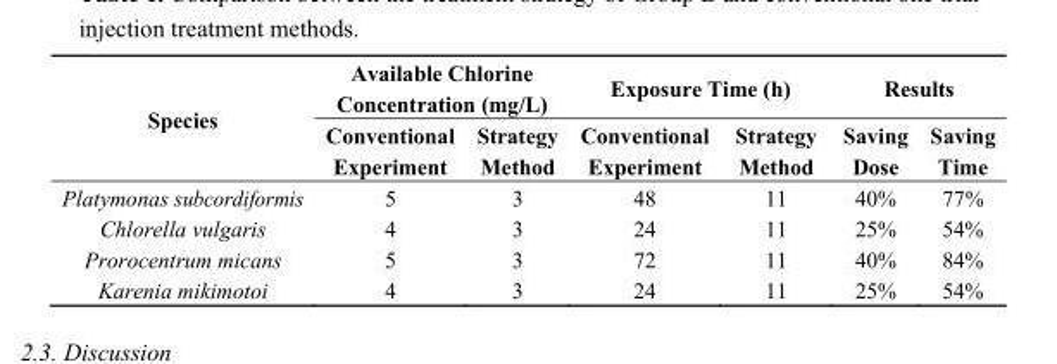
<table><thead><tr><td rowspan="2">Species</td><td colspan="2">Available Chlorine Concentration (mg/L)</td><td colspan="2">Exposure Time (h)</td><td colspan="2">Results</td></tr><tr><td>Conventional Experiment</td><td>Strategy Method</td><td>Conventional Experiment</td><td>Strategy Method</td><td>Saving Dose</td><td>Saving Time</td></tr></thead><tbody><tr><td>Platymonas subcordiformis</td><td>5</td><td>3</td><td>48</td><td>11</td><td>40%</td><td>77%</td></tr><tr><td>Chlorella vulgaris</td><td>4</td><td>3</td><td>24</td><td>11</td><td>25%</td><td>54%</td></tr><tr><td>Prorocentrum micans</td><td>5</td><td>3</td><td>72</td><td>11</td><td>40%</td><td>84%</td></tr><tr><td>Karenia mikimotoi</td><td>4</td><td>3</td><td>24</td><td>11</td><td>25%</td><td>54%</td></tr></tbody></table>